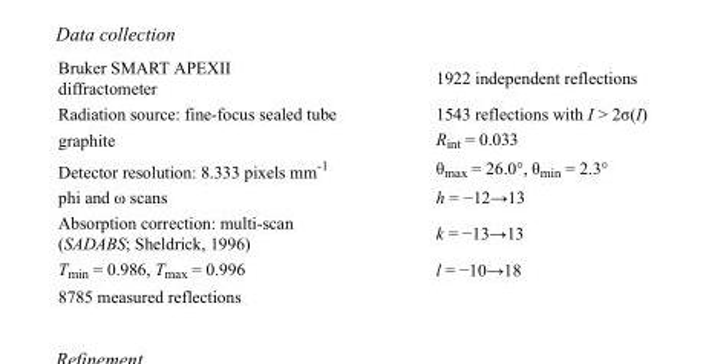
<table><tbody><tr><td>Bruker SMART APEXII diffractometer</td><td>1922 independent reflections</td></tr><tr><td>Radiation source: fine-focus sealed tube</td><td>1543 reflections with I &gt; 2σ(I)</td></tr><tr><td>graphite</td><td>R<sub>int</sub> = 0.033</td></tr><tr><td>Detector resolution: 8.333 pixels mm<sup>-1</sup></td><td>θ<sub>max</sub> = 26.0°, θ<sub>min</sub> = 2.3°</td></tr><tr><td>phi and ω scans</td><td>h = −12→13</td></tr><tr><td>Absorption correction: multi-scan (SADABS; Sheldrick, 1996)</td><td>k = −13→13</td></tr><tr><td>T<sub>min</sub> = 0.986, T<sub>max</sub> = 0.996</td><td>l = −10→18</td></tr><tr><td>8785 measured reflections</td><td></td></tr></tbody></table>